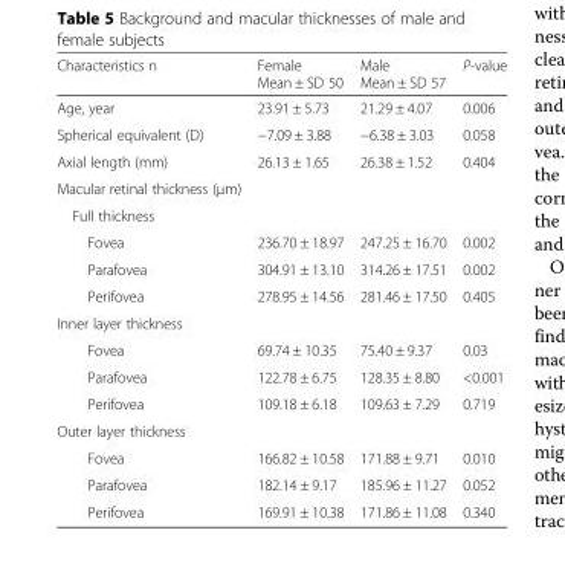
<table><thead><tr><td>Characteristics n</td><td>Female Mean ± SD 50</td><td>Male Mean ± SD 57</td><td>P-value</td></tr></thead><tbody><tr><td>Age, year</td><td>23.91 ± 5.73</td><td>21.29 ± 4.07</td><td>0.006</td></tr><tr><td>Spherical equivalent (D)</td><td>−7.09 ± 3.88</td><td>−6.38 ± 3.03</td><td>0.058</td></tr><tr><td>Axial length (mm)</td><td>26.13 ± 1.65</td><td>26.38 ± 1.52</td><td>0.404</td></tr><tr><td colspan="4">Macular retinal thickness (μm)</td></tr><tr><td colspan="4">Full thickness</td></tr><tr><td>Fovea</td><td>236.70 ± 18.97</td><td>247.25 ± 16.70</td><td>0.002</td></tr><tr><td>Parafovea</td><td>304.91 ± 13.10</td><td>314.26 ± 17.51</td><td>0.002</td></tr><tr><td>Perifovea</td><td>278.95 ± 14.56</td><td>281.46 ± 17.50</td><td>0.405</td></tr><tr><td colspan="4">Inner layer thickness</td></tr><tr><td>Fovea</td><td>69.74 ± 10.35</td><td>75.40 ± 9.37</td><td>0.03</td></tr><tr><td>Parafovea</td><td>122.78 ± 6.75</td><td>128.35 ± 8.80</td><td>&lt;0.001</td></tr><tr><td>Perifovea</td><td>109.18 ± 6.18</td><td>109.63 ± 7.29</td><td>0.719</td></tr><tr><td colspan="4">Outer layer thickness</td></tr><tr><td>Fovea</td><td>166.82 ± 10.58</td><td>171.88 ± 9.71</td><td>0.010</td></tr><tr><td>Parafovea</td><td>182.14 ± 9.17</td><td>185.96 ± 11.27</td><td>0.052</td></tr><tr><td>Perifovea</td><td>169.91 ± 10.38</td><td>171.86 ± 11.08</td><td>0.340</td></tr></tbody></table>